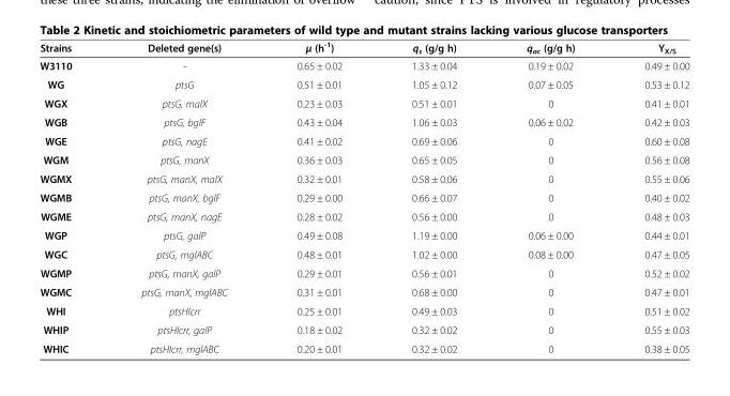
<table><thead><tr><td>Strains</td><td>Deleted gene(s)</td><td>μ (h<sup>-1</sup>)</td><td>q<sub>s</sub> (g/g h)</td><td>q<sub>ac</sub> (g/g h)</td><td>Y<sub>X/S</sub></td></tr></thead><tbody><tr><td>W3110</td><td>-</td><td>0.65 ± 0.02</td><td>1.33 ± 0.04</td><td>0.19 ± 0.02</td><td>0.49 ± 0.00</td></tr><tr><td>WG</td><td>ptsG</td><td>0.51 ± 0.01</td><td>1.05 ± 0.12</td><td>0.07 ± 0.05</td><td>0.53 ± 0.12</td></tr><tr><td>WGX</td><td>ptsG, malX</td><td>0.23 ± 0.03</td><td>0.51 ± 0.01</td><td>0</td><td>0.41 ± 0.01</td></tr><tr><td>WGB</td><td>ptsG, bglF</td><td>0.43 ± 0.04</td><td>1.06 ± 0.03</td><td>0.06 ± 0.02</td><td>0.42 ± 0.03</td></tr><tr><td>WGE</td><td>ptsG, nagE</td><td>0.41 ± 0.02</td><td>0.69 ± 0.06</td><td>0</td><td>0.60 ± 0.08</td></tr><tr><td>WGM</td><td>ptsG, manX</td><td>0.36 ± 0.03</td><td>0.65 ± 0.05</td><td>0</td><td>0.56 ± 0.08</td></tr><tr><td>WGMX</td><td>ptsG, manX, malX</td><td>0.32 ± 0.01</td><td>0.58 ± 0.06</td><td>0</td><td>0.55 ± 0.06</td></tr><tr><td>WGMB</td><td>ptsG, manX, bglF</td><td>0.29 ± 0.00</td><td>0.66 ± 0.07</td><td>0</td><td>0.40 ± 0.02</td></tr><tr><td>WGME</td><td>ptsG, manX, nagE</td><td>0.28 ± 0.02</td><td>0.56 ± 0.00</td><td>0</td><td>0.48 ± 0.03</td></tr><tr><td>WGP</td><td>ptsG, galP</td><td>0.49 ± 0.08</td><td>1.19 ± 0.00</td><td>0.06 ± 0.00</td><td>0.44 ± 0.01</td></tr><tr><td>WGC</td><td>ptsG, mglABC</td><td>0.48 ± 0.01</td><td>1.02 ± 0.00</td><td>0.08 ± 0.00</td><td>0.47 ± 0.05</td></tr><tr><td>WGMP</td><td>ptsG, manX, galP</td><td>0.29 ± 0.01</td><td>0.56 ± 0.01</td><td>0</td><td>0.52 ± 0.02</td></tr><tr><td>WGMC</td><td>ptsG, manX, mglABC</td><td>0.31 ± 0.01</td><td>0.68 ± 0.00</td><td>0</td><td>0.47 ± 0.01</td></tr><tr><td>WHI</td><td>ptsHIcrr</td><td>0.25 ± 0.01</td><td>0.49 ± 0.03</td><td>0</td><td>0.51 ± 0.02</td></tr><tr><td>WHIP</td><td>ptsHIcrr, galP</td><td>0.18 ± 0.02</td><td>0.32 ± 0.02</td><td>0</td><td>0.55 ± 0.03</td></tr><tr><td>WHIC</td><td>ptsHIcrr, mglABC</td><td>0.20 ± 0.01</td><td>0.32 ± 0.02</td><td>0</td><td>0.38 ± 0.05</td></tr></tbody></table>